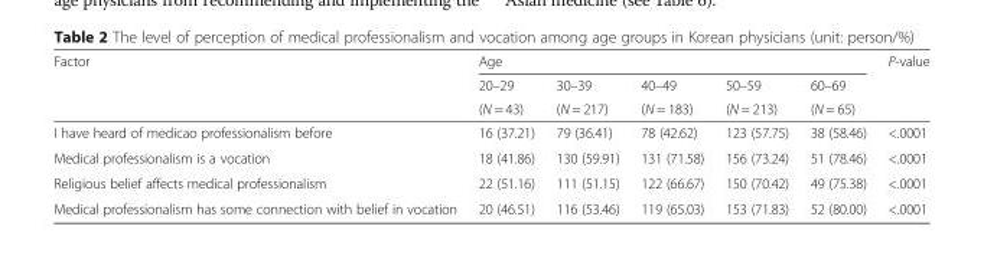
<table><thead><tr><td rowspan="3">Factor</td><td colspan="5">Age</td><td rowspan="3">P-value</td></tr><tr><td rowspan="2">20–29 (N = 43)</td><td rowspan="2">30–39 (N = 217)</td><td rowspan="2">40–49 (N = 183)</td><td rowspan="2">50–59 (N = 213)</td><td rowspan="2">60–69 (N = 65)</td></tr><tr></tr></thead><tbody><tr><td>I have heard of medicao professionalism before</td><td>16 (37.21)</td><td>79 (36.41)</td><td>78 (42.62)</td><td>123 (57.75)</td><td>38 (58.46)</td><td>&lt;.0001</td></tr><tr><td>Medical professionalism is a vocation</td><td>18 (41.86)</td><td>130 (59.91)</td><td>131 (71.58)</td><td>156 (73.24)</td><td>51 (78.46)</td><td>&lt;.0001</td></tr><tr><td>Religious belief affects medical professionalism</td><td>22 (51.16)</td><td>111 (51.15)</td><td>122 (66.67)</td><td>150 (70.42)</td><td>49 (75.38)</td><td>&lt;.0001</td></tr><tr><td>Medical professionalism has some connection with belief in vocation</td><td>20 (46.51)</td><td>116 (53.46)</td><td>119 (65.03)</td><td>153 (71.83)</td><td>52 (80.00)</td><td>&lt;.0001</td></tr></tbody></table>